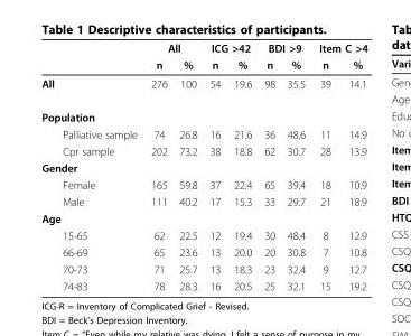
<table><thead><tr><td rowspan="2"></td><td colspan="2">All</td><td colspan="2">ICG &gt;42</td><td colspan="2">BDI &gt;9</td><td colspan="2">Item C &gt;4</td></tr><tr><td>n</td><td>%</td><td>n</td><td>%</td><td>n</td><td>%</td><td>n</td><td>%</td></tr></thead><tbody><tr><td>All</td><td>276</td><td>100</td><td>54</td><td>19.6</td><td>98</td><td>35.5</td><td>39</td><td>14.1</td></tr><tr><td colspan="9">Population</td></tr><tr><td>Palliative sample</td><td>74</td><td>26.8</td><td>16</td><td>21.6</td><td>36</td><td>48.6</td><td>11</td><td>14.9</td></tr><tr><td>Cpr sample</td><td>202</td><td>73.2</td><td>38</td><td>18.8</td><td>62</td><td>30.7</td><td>28</td><td>13.9</td></tr><tr><td colspan="9">Gender</td></tr><tr><td>Female</td><td>165</td><td>59.8</td><td>37</td><td>22.4</td><td>65</td><td>39.4</td><td>18</td><td>10.9</td></tr><tr><td>Male</td><td>111</td><td>40.2</td><td>17</td><td>15.3</td><td>33</td><td>29.7</td><td>21</td><td>18.9</td></tr><tr><td colspan="9">Age</td></tr><tr><td>15-65</td><td>62</td><td>22.5</td><td>12</td><td>19.4</td><td>30</td><td>48.4</td><td>8</td><td>12.9</td></tr><tr><td>66-69</td><td>65</td><td>23.6</td><td>13</td><td>20.0</td><td>20</td><td>30.8</td><td>7</td><td>10.8</td></tr><tr><td>70-73</td><td>71</td><td>25.7</td><td>13</td><td>18.3</td><td>23</td><td>32.4</td><td>9</td><td>12.7</td></tr><tr><td>74-83</td><td>78</td><td>28.3</td><td>16</td><td>20.5</td><td>25</td><td>32.1</td><td>15</td><td>19.2</td></tr></tbody></table>